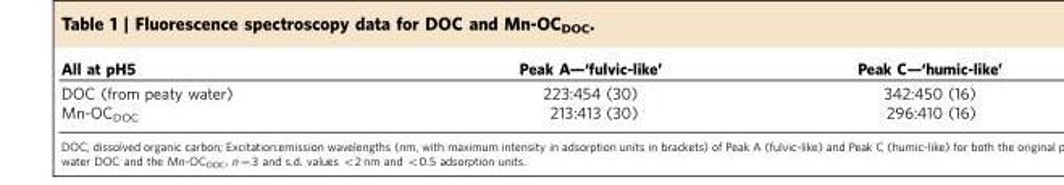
<table><thead><tr><td>All at pH5</td><td>Peak A—‘fulvic-like’</td><td>Peak C—‘humic-like’</td></tr></thead><tbody><tr><td>DOC (from peaty water)</td><td>223:454 (30)</td><td>342:450 (16)</td></tr><tr><td>Mn-OC<sub>DOC</sub></td><td>213:413 (30)</td><td>296:410 (16)</td></tr></tbody></table>